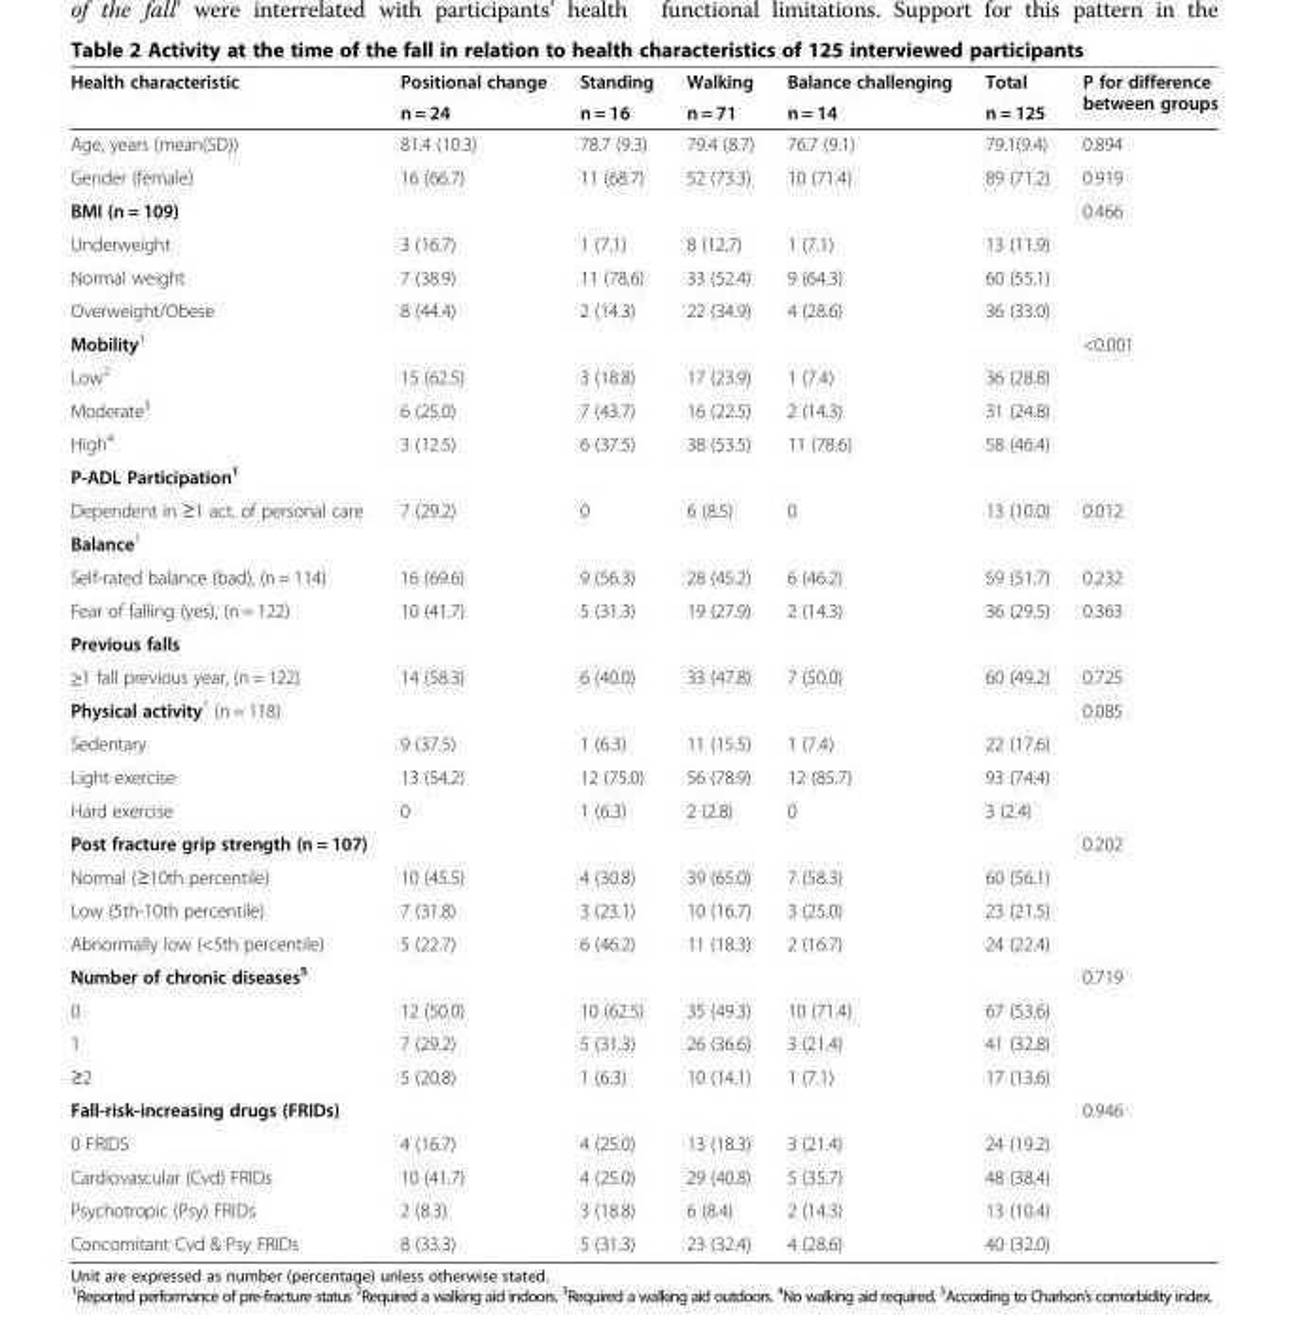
<table><thead><tr><td rowspan="2">Health characteristic</td><td rowspan="2">Positional change n = 24</td><td rowspan="2">Standing n = 16</td><td rowspan="2">Walking n = 71</td><td rowspan="2">Balance challenging n = 14</td><td rowspan="2">Total n = 125</td><td rowspan="2">P for difference between groups</td></tr><tr></tr></thead><tbody><tr><td>Age, years (mean(SD))</td><td>81.4 (10.3)</td><td>78.7 (9.3)</td><td>79.4 (8.7)</td><td>76.7 (9.1)</td><td>79.1(9.4)</td><td>0.894</td></tr><tr><td>Gender (female)</td><td>16 (66.7)</td><td>11 (68.7)</td><td>52 (73.3)</td><td>10 (71.4)</td><td>89 (71.2)</td><td>0.919</td></tr><tr><td>BMI (n = 109)</td><td></td><td></td><td></td><td></td><td></td><td>0.466</td></tr><tr><td>Underweight</td><td>3 (16.7)</td><td>1 (7.1)</td><td>8 (12.7)</td><td>1 (7.1)</td><td>13 (11.9)</td><td></td></tr><tr><td>Normal weight</td><td>7 (38.9)</td><td>11 (78.6)</td><td>33 (52.4)</td><td>9 (64.3)</td><td>60 (55.1)</td><td></td></tr><tr><td>Overweight/Obese</td><td>8 (44.4)</td><td>2 (14.3)</td><td>22 (34.9)</td><td>4 (28.6)</td><td>36 (33.0)</td><td></td></tr><tr><td>Mobility<sup>1</sup></td><td></td><td></td><td></td><td></td><td></td><td>&lt;0.001</td></tr><tr><td>Low<sup>2</sup></td><td>15 (62.5)</td><td>3 (18.8)</td><td>17 (23.9)</td><td>1 (7.4)</td><td>36 (28.8)</td><td></td></tr><tr><td>Moderate<sup>3</sup></td><td>6 (25.0)</td><td>7 (43.7)</td><td>16 (22.5)</td><td>2 (14.3)</td><td>31 (24.8)</td><td></td></tr><tr><td>High<sup>4</sup></td><td>3 (12.5)</td><td>6 (37.5)</td><td>38 (53.5)</td><td>11 (78.6)</td><td>58 (46.4)</td><td></td></tr><tr><td colspan="7">P-ADL Participation<sup>1</sup></td></tr><tr><td>Dependent in ≥1 act. of personal care</td><td>7 (29.2)</td><td>0</td><td>6 (8.5)</td><td>0</td><td>13 (10.0)</td><td>0.012</td></tr><tr><td colspan="7">Balance<sup>1</sup></td></tr><tr><td>Self-rated balance (bad), (n = 114)</td><td>16 (69.6)</td><td>9 (56.3)</td><td>28 (45.2)</td><td>6 (46.2)</td><td>59 (51.7)</td><td>0.232</td></tr><tr><td>Fear of falling (yes), (n = 122)</td><td>10 (41.7)</td><td>5 (31.3)</td><td>19 (27.9)</td><td>2 (14.3)</td><td>36 (29.5)</td><td>0.363</td></tr><tr><td colspan="7">Previous falls</td></tr><tr><td>≥1 fall previous year, (n = 122)</td><td>14 (58.3)</td><td>6 (40.0)</td><td>33 (47.8)</td><td>7 (50.0)</td><td>60 (49.2)</td><td>0.725</td></tr><tr><td>Physical activity<sup>1</sup> (n = 118)</td><td></td><td></td><td></td><td></td><td></td><td>0.085</td></tr><tr><td>Sedentary</td><td>9 (37.5)</td><td>1 (6.3)</td><td>11 (15.5)</td><td>1 (7.4)</td><td>22 (17.6)</td><td></td></tr><tr><td>Light exercise</td><td>13 (54.2)</td><td>12 (75.0)</td><td>56 (78.9)</td><td>12 (85.7)</td><td>93 (74.4)</td><td></td></tr><tr><td>Hard exercise</td><td>0</td><td>1 (6.3)</td><td>2 (2.8)</td><td>0</td><td>3 (2.4)</td><td></td></tr><tr><td>Post fracture grip strength (n = 107)</td><td></td><td></td><td></td><td></td><td></td><td>0.202</td></tr><tr><td>Normal (≥10th percentile)</td><td>10 (45.5)</td><td>4 (30.8)</td><td>39 (65.0)</td><td>7 (58.3)</td><td>60 (56.1)</td><td></td></tr><tr><td>Low (5th-10th percentile)</td><td>7 (31.8)</td><td>3 (23.1)</td><td>10 (16.7)</td><td>3 (25.0)</td><td>23 (21.5)</td><td></td></tr><tr><td>Abnormally low (&lt;5th percentile)</td><td>5 (22.7)</td><td>6 (46.2)</td><td>11 (18.3)</td><td>2 (16.7)</td><td>24 (22.4)</td><td></td></tr><tr><td>Number of chronic diseases<sup>5</sup></td><td></td><td></td><td></td><td></td><td></td><td>0.719</td></tr><tr><td>0</td><td>12 (50.0)</td><td>10 (62.5)</td><td>35 (49.3)</td><td>10 (71.4)</td><td>67 (53.6)</td><td></td></tr><tr><td>1</td><td>7 (29.2)</td><td>5 (31.3)</td><td>26 (36.6)</td><td>3 (21.4)</td><td>41 (32.8)</td><td></td></tr><tr><td>≥2</td><td>5 (20.8)</td><td>1 (6.3)</td><td>10 (14.1)</td><td>1 (7.1)</td><td>17 (13.6)</td><td></td></tr><tr><td>Fall-risk-increasing drugs (FRIDs)</td><td></td><td></td><td></td><td></td><td></td><td>0.946</td></tr><tr><td>0 FRIDS</td><td>4 (16.7)</td><td>4 (25.0)</td><td>13 (18.3)</td><td>3 (21.4)</td><td>24 (19.2)</td><td></td></tr><tr><td>Cardiovascular (Cvd) FRIDs</td><td>10 (41.7)</td><td>4 (25.0)</td><td>29 (40.8)</td><td>5 (35.7)</td><td>48 (38.4)</td><td></td></tr><tr><td>Psychotropic (Psy) FRIDs</td><td>2 (8.3)</td><td>3 (18.8)</td><td>6 (8.4)</td><td>2 (14.3)</td><td>13 (10.4)</td><td></td></tr><tr><td>Concomitant Cvd &amp; Psy FRIDs</td><td>8 (33.3)</td><td>5 (31.3)</td><td>23 (32.4)</td><td>4 (28.6)</td><td>40 (32.0)</td><td></td></tr></tbody></table>